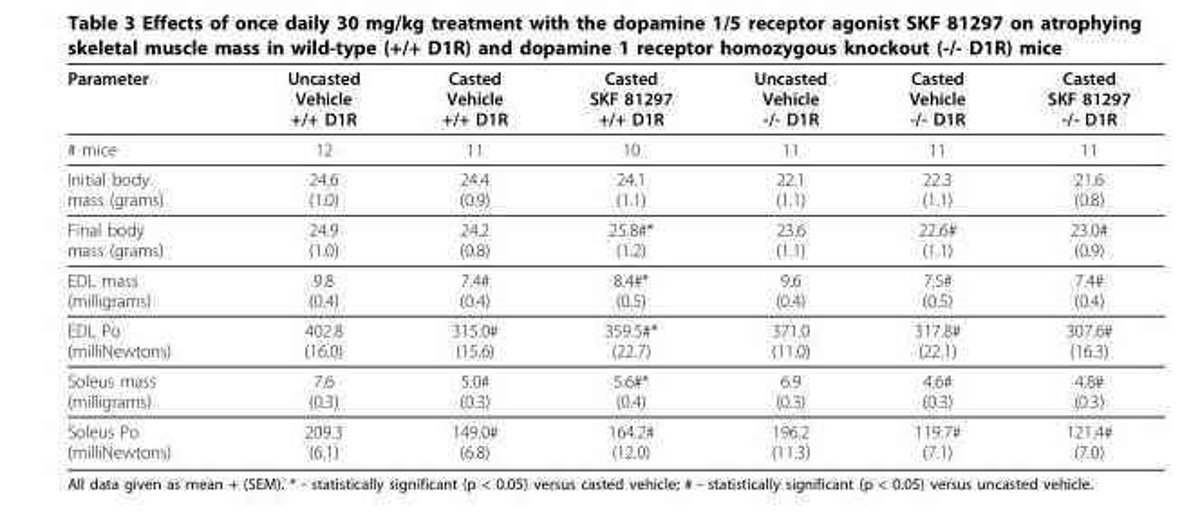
<table><thead><tr><td>Parameter</td><td>Uncasted Vehicle +/+ D1R</td><td>Casted Vehicle +/+ D1R</td><td>Casted SKF 81297 +/+ D1R</td><td>Uncasted Vehicle -/- D1R</td><td>Casted Vehicle -/- D1R</td><td>Casted SKF 81297 -/- D1R</td></tr></thead><tbody><tr><td># mice</td><td>12</td><td>11</td><td>10</td><td>11</td><td>11</td><td>11</td></tr><tr><td>Initial body mass (grams)</td><td>24.6 (1.0)</td><td>24.4 (0.9)</td><td>24.1 (1.1)</td><td>22.1 (1.1)</td><td>22.3 (1.1)</td><td>21.6 (0.8)</td></tr><tr><td>Final body mass (grams)</td><td>24.9 (1.0)</td><td>24.2 (0.8)</td><td>25.8#* (1.2)</td><td>23.6 (1.1)</td><td>22.6# (1.1)</td><td>23.0# (0.9)</td></tr><tr><td>EDL mass (milligrams)</td><td>9.8 (0.4)</td><td>7.4# (0.4)</td><td>8.4#* (0.5)</td><td>9.6 (0.4)</td><td>7.5# (0.5)</td><td>7.4# (0.4)</td></tr><tr><td>EDL Po (milliNewtons)</td><td>402.8 (16.0)</td><td>315.0# (15.6)</td><td>359.5#* (22.7)</td><td>371.0 (11.0)</td><td>317.8# (22.1)</td><td>307.6# (16.3)</td></tr><tr><td>Soleus mass (milligrams)</td><td>7.6 (0.3)</td><td>5.0# (0.3)</td><td>5.6#* (0.4)</td><td>6.9 (0.3)</td><td>4.6# (0.3)</td><td>4.8# (0.3)</td></tr><tr><td>Soleus Po (milliNewtons)</td><td>209.3 (6.1)</td><td>149.0# (6.8)</td><td>164.2# (12.0)</td><td>196.2 (11.3)</td><td>119.7# (7.1)</td><td>121.4# (7.0)</td></tr></tbody></table>